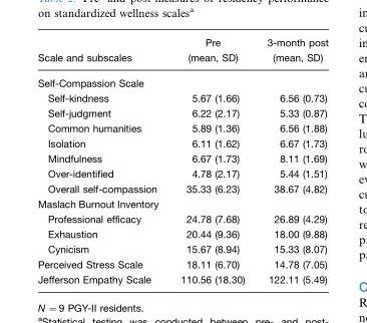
<table><thead><tr><td>Scale and subscales</td><td>Pre (mean, SD)</td><td>3-month post (mean, SD)</td></tr></thead><tbody><tr><td colspan="3">Self-Compassion Scale</td></tr><tr><td>Self-kindness</td><td>5.67 (1.66)</td><td>6.56 (0.73)</td></tr><tr><td>Self-judgment</td><td>6.22 (2.17)</td><td>5.33 (0.87)</td></tr><tr><td>Common humanities</td><td>5.89 (1.36)</td><td>6.56 (1.88)</td></tr><tr><td>Isolation</td><td>6.11 (1.62)</td><td>6.67 (1.73)</td></tr><tr><td>Mindfulness</td><td>6.67 (1.73)</td><td>8.11 (1.69)</td></tr><tr><td>Over-identified</td><td>4.78 (2.17)</td><td>5.44 (1.51)</td></tr><tr><td>Overall self-compassion</td><td>35.33 (6.23)</td><td>38.67 (4.82)</td></tr><tr><td colspan="3">Maslach Burnout Inventory</td></tr><tr><td>Professional efficacy</td><td>24.78 (7.68)</td><td>26.89 (4.29)</td></tr><tr><td>Exhaustion</td><td>20.44 (9.36)</td><td>18.00 (9.88)</td></tr><tr><td>Cynicism</td><td>15.67 (8.94)</td><td>15.33 (8.07)</td></tr><tr><td>Perceived Stress Scale</td><td>18.11 (6.70)</td><td>14.78 (7.05)</td></tr><tr><td>Jefferson Empathy Scale</td><td>110.56 (18.30)</td><td>122.11 (5.49)</td></tr></tbody></table>